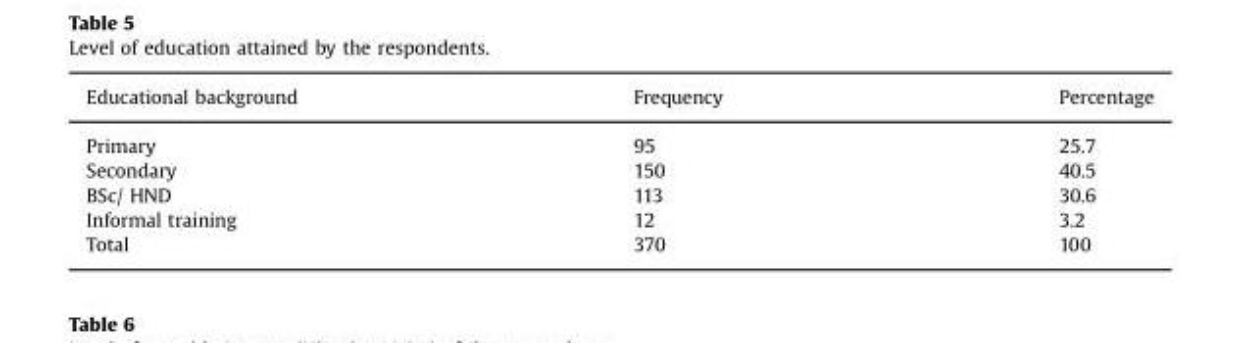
<table><thead><tr><td>Educational background</td><td>Frequency</td><td>Percentage</td></tr></thead><tbody><tr><td>Primary</td><td>95</td><td>25.7</td></tr><tr><td>Secondary</td><td>150</td><td>40.5</td></tr><tr><td>BSc/ HND</td><td>113</td><td>30.6</td></tr><tr><td>Informal training</td><td>12</td><td>3.2</td></tr><tr><td>Total</td><td>370</td><td>100</td></tr></tbody></table>